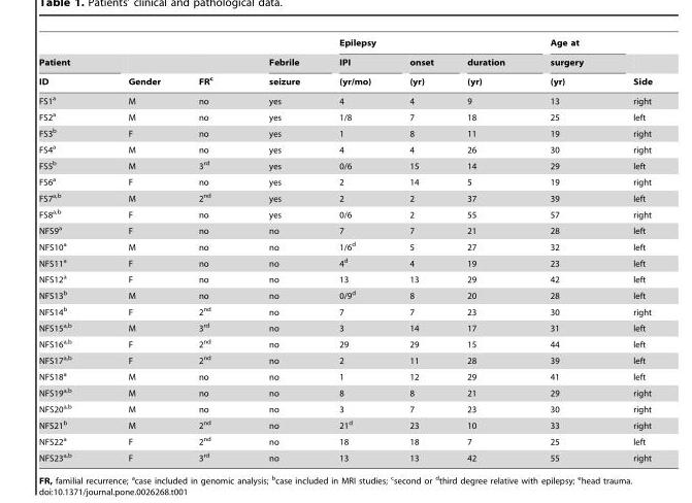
<table><thead><tr><td rowspan="3">Patient ID</td><td rowspan="3">Gender</td><td rowspan="3">FR<sup>c</sup></td><td rowspan="3">Febrile seizure</td><td colspan="3">Epilepsy</td><td rowspan="3">Age at surgery (yr)</td><td rowspan="3">Side</td></tr><tr><td rowspan="2">IPI (yr/mo)</td><td rowspan="2">onset (yr)</td><td rowspan="2">duration (yr)</td></tr><tr></tr></thead><tbody><tr><td>FS1<sup>a</sup></td><td>M</td><td>no</td><td>yes</td><td>4</td><td>4</td><td>9</td><td>13</td><td>right</td></tr><tr><td>FS2<sup>a</sup></td><td>M</td><td>no</td><td>yes</td><td>1/8</td><td>7</td><td>18</td><td>25</td><td>left</td></tr><tr><td>FS3<sup>b</sup></td><td>F</td><td>no</td><td>yes</td><td>1</td><td>8</td><td>11</td><td>19</td><td>right</td></tr><tr><td>FS4<sup>a</sup></td><td>M</td><td>no</td><td>yes</td><td>4</td><td>4</td><td>26</td><td>30</td><td>right</td></tr><tr><td>FS5<sup>b</sup></td><td>M</td><td>3<sup>rd</sup></td><td>yes</td><td>0/6</td><td>15</td><td>14</td><td>29</td><td>left</td></tr><tr><td>FS6<sup>a</sup></td><td>F</td><td>no</td><td>yes</td><td>2</td><td>14</td><td>5</td><td>19</td><td>right</td></tr><tr><td>FS7<sup>a,b</sup></td><td>M</td><td>2<sup>nd</sup></td><td>yes</td><td>2</td><td>2</td><td>37</td><td>39</td><td>left</td></tr><tr><td>FS8<sup>a,b</sup></td><td>F</td><td>no</td><td>yes</td><td>0/6</td><td>2</td><td>55</td><td>57</td><td>right</td></tr><tr><td>NFS9<sup>a</sup></td><td>F</td><td>no</td><td>no</td><td>7</td><td>7</td><td>21</td><td>28</td><td>left</td></tr><tr><td>NFS10<sup>a</sup></td><td>M</td><td>no</td><td>no</td><td>1/6<sup>d</sup></td><td>5</td><td>27</td><td>32</td><td>left</td></tr><tr><td>NFS11<sup>a</sup></td><td>F</td><td>no</td><td>no</td><td>4<sup>d</sup></td><td>4</td><td>19</td><td>23</td><td>left</td></tr><tr><td>NFS12<sup>a</sup></td><td>F</td><td>no</td><td>no</td><td>13</td><td>13</td><td>29</td><td>42</td><td>left</td></tr><tr><td>NFS13<sup>b</sup></td><td>M</td><td>no</td><td>no</td><td>0/9<sup>d</sup></td><td>8</td><td>20</td><td>28</td><td>left</td></tr><tr><td>NFS14<sup>b</sup></td><td>F</td><td>2<sup>nd</sup></td><td>no</td><td>7</td><td>7</td><td>23</td><td>30</td><td>right</td></tr><tr><td>NFS15<sup>a,b</sup></td><td>M</td><td>3<sup>rd</sup></td><td>no</td><td>3</td><td>14</td><td>17</td><td>31</td><td>left</td></tr><tr><td>NFS16<sup>a,b</sup></td><td>F</td><td>2<sup>nd</sup></td><td>no</td><td>29</td><td>29</td><td>15</td><td>44</td><td>left</td></tr><tr><td>NFS17<sup>a,b</sup></td><td>F</td><td>2<sup>nd</sup></td><td>no</td><td>2</td><td>11</td><td>28</td><td>39</td><td>left</td></tr><tr><td>NFS18<sup>a</sup></td><td>M</td><td>no</td><td>no</td><td>1</td><td>12</td><td>29</td><td>41</td><td>left</td></tr><tr><td>NFS19<sup>a,b</sup></td><td>M</td><td>no</td><td>no</td><td>8</td><td>8</td><td>21</td><td>29</td><td>right</td></tr><tr><td>NFS20<sup>a,b</sup></td><td>M</td><td>no</td><td>no</td><td>3</td><td>7</td><td>23</td><td>30</td><td>right</td></tr><tr><td>NFS21<sup>b</sup></td><td>M</td><td>2<sup>nd</sup></td><td>no</td><td>21<sup>d</sup></td><td>23</td><td>10</td><td>33</td><td>right</td></tr><tr><td>NFS22<sup>a</sup></td><td>F</td><td>2<sup>nd</sup></td><td>no</td><td>18</td><td>18</td><td>7</td><td>25</td><td>left</td></tr><tr><td>NFS23<sup>a,b</sup></td><td>F</td><td>3<sup>rd</sup></td><td>no</td><td>13</td><td>13</td><td>42</td><td>55</td><td>right</td></tr></tbody></table>